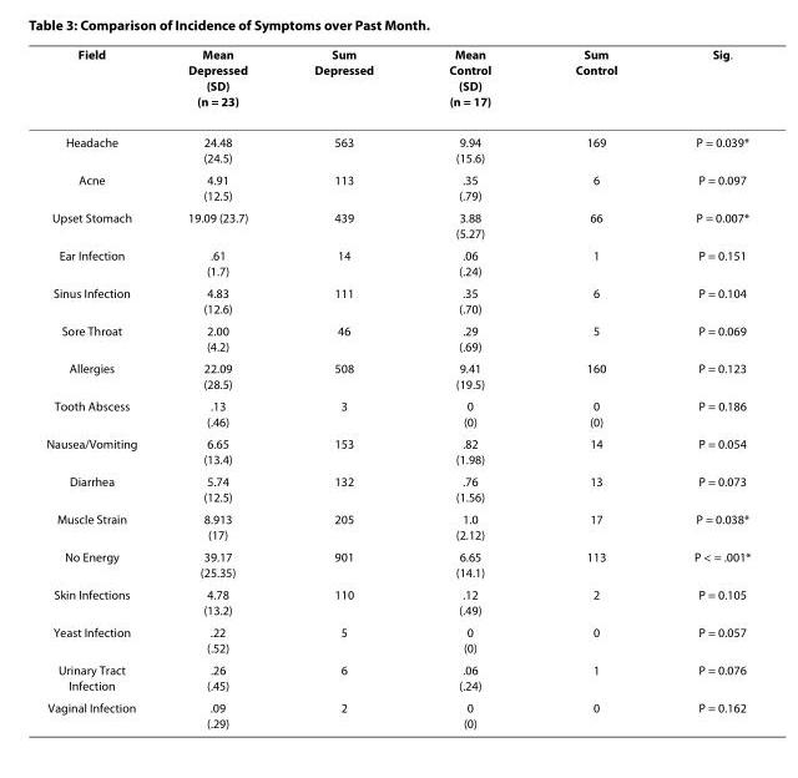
<table><thead><tr><td>Field</td><td>Mean Depressed (SD) (n = 23)</td><td>Sum Depressed</td><td>Mean Control (SD) (n = 17)</td><td>Sum Control</td><td>Sig.</td></tr></thead><tbody><tr><td>Headache</td><td>24.48 (24.5)</td><td>563</td><td>9.94 (15.6)</td><td>169</td><td>P = 0.039*</td></tr><tr><td>Acne</td><td>4.91 (12.5)</td><td>113</td><td>.35 (.79)</td><td>6</td><td>P = 0.097</td></tr><tr><td>Upset Stomach</td><td>19.09 (23.7)</td><td>439</td><td>3.88 (5.27)</td><td>66</td><td>P = 0.007*</td></tr><tr><td>Ear Infection</td><td>.61 (1.7)</td><td>14</td><td>.06 (.24)</td><td>1</td><td>P = 0.151</td></tr><tr><td>Sinus Infection</td><td>4.83 (12.6)</td><td>111</td><td>.35 (.70)</td><td>6</td><td>P = 0.104</td></tr><tr><td>Sore Throat</td><td>2.00 (4.2)</td><td>46</td><td>.29 (.69)</td><td>5</td><td>P = 0.069</td></tr><tr><td>Allergies</td><td>22.09 (28.5)</td><td>508</td><td>9.41 (19.5)</td><td>160</td><td>P = 0.123</td></tr><tr><td>Tooth Abscess</td><td>.13 (.46)</td><td>3</td><td>0 (0)</td><td>0 (0)</td><td>P = 0.186</td></tr><tr><td>Nausea/Vomiting</td><td>6.65 (13.4)</td><td>153</td><td>.82 (1.98)</td><td>14</td><td>P = 0.054</td></tr><tr><td>Diarrhea</td><td>5.74 (12.5)</td><td>132</td><td>.76 (1.56)</td><td>13</td><td>P = 0.073</td></tr><tr><td>Muscle Strain</td><td>8.913 (17)</td><td>205</td><td>1.0 (2.12)</td><td>17</td><td>P = 0.038*</td></tr><tr><td>No Energy</td><td>39.17 (25.35)</td><td>901</td><td>6.65 (14.1)</td><td>113</td><td>P &lt; = .001*</td></tr><tr><td>Skin Infections</td><td>4.78 (13.2)</td><td>110</td><td>.12 (.49)</td><td>2</td><td>P = 0.105</td></tr><tr><td>Yeast Infection</td><td>.22 (.52)</td><td>5</td><td>0 (0)</td><td>0</td><td>P = 0.057</td></tr><tr><td>Urinary Tract Infection</td><td>.26 (.45)</td><td>6</td><td>.06 (.24)</td><td>1</td><td>P = 0.076</td></tr><tr><td>Vaginal Infection</td><td>.09 (.29)</td><td>2</td><td>0 (0)</td><td>0</td><td>P = 0.162</td></tr></tbody></table>